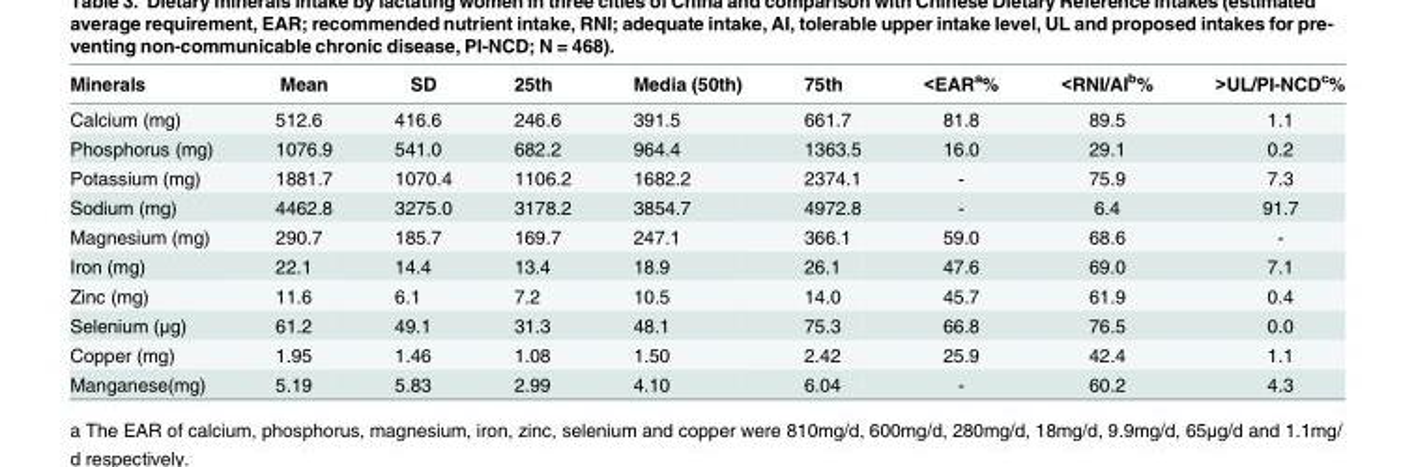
<table><thead><tr><td>Minerals</td><td>Mean</td><td>SD</td><td>25th</td><td>Media (50th)</td><td>75th</td><td>&lt;EAR<sup>a</sup>%</td><td>&lt;RNI/AI<sup>b</sup>%</td><td>&gt;UL/PI-NCD<sup>c</sup>%</td></tr></thead><tbody><tr><td>Calcium (mg)</td><td>512.6</td><td>416.6</td><td>246.6</td><td>391.5</td><td>661.7</td><td>81.8</td><td>89.5</td><td>1.1</td></tr><tr><td>Phosphorus (mg)</td><td>1076.9</td><td>541.0</td><td>682.2</td><td>964.4</td><td>1363.5</td><td>16.0</td><td>29.1</td><td>0.2</td></tr><tr><td>Potassium (mg)</td><td>1881.7</td><td>1070.4</td><td>1106.2</td><td>1682.2</td><td>2374.1</td><td>-</td><td>75.9</td><td>7.3</td></tr><tr><td>Sodium (mg)</td><td>4462.8</td><td>3275.0</td><td>3178.2</td><td>3854.7</td><td>4972.8</td><td>-</td><td>6.4</td><td>91.7</td></tr><tr><td>Magnesium (mg)</td><td>290.7</td><td>185.7</td><td>169.7</td><td>247.1</td><td>366.1</td><td>59.0</td><td>68.6</td><td>-</td></tr><tr><td>Iron (mg)</td><td>22.1</td><td>14.4</td><td>13.4</td><td>18.9</td><td>26.1</td><td>47.6</td><td>69.0</td><td>7.1</td></tr><tr><td>Zinc (mg)</td><td>11.6</td><td>6.1</td><td>7.2</td><td>10.5</td><td>14.0</td><td>45.7</td><td>61.9</td><td>0.4</td></tr><tr><td>Selenium (μg)</td><td>61.2</td><td>49.1</td><td>31.3</td><td>48.1</td><td>75.3</td><td>66.8</td><td>76.5</td><td>0.0</td></tr><tr><td>Copper (mg)</td><td>1.95</td><td>1.46</td><td>1.08</td><td>1.50</td><td>2.42</td><td>25.9</td><td>42.4</td><td>1.1</td></tr><tr><td>Manganese(mg)</td><td>5.19</td><td>5.83</td><td>2.99</td><td>4.10</td><td>6.04</td><td>-</td><td>60.2</td><td>4.3</td></tr></tbody></table>